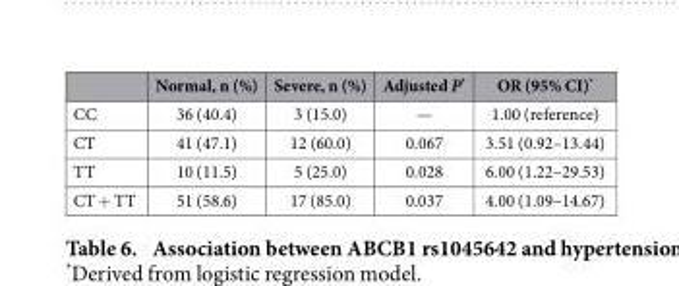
<table><thead><tr><td></td><td>Normal, n (%)</td><td>Severe, n (%)</td><td>Adjusted P*</td><td>OR (95% CI)*</td></tr></thead><tbody><tr><td>CC</td><td>36 (40.4)</td><td>3 (15.0)</td><td>—</td><td>1.00 (reference)</td></tr><tr><td>CT</td><td>41 (47.1)</td><td>12 (60.0)</td><td>0.067</td><td>3.51 (0.92–13.44)</td></tr><tr><td>TT</td><td>10 (11.5)</td><td>5 (25.0)</td><td>0.028</td><td>6.00 (1.22–29.53)</td></tr><tr><td>CT + TT</td><td>51 (58.6)</td><td>17 (85.0)</td><td>0.037</td><td>4.00 (1.09–14.67)</td></tr></tbody></table>